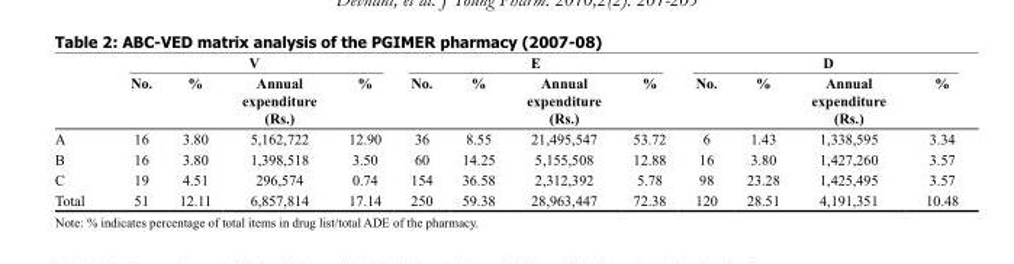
<table><thead><tr><td rowspan="2"></td><td colspan="4">V</td><td colspan="4">E</td><td colspan="4">D</td></tr><tr><td>No.</td><td>%</td><td>Annual expenditure (Rs.)</td><td>%</td><td>No.</td><td>%</td><td>Annual expenditure (Rs.)</td><td>%</td><td>No.</td><td>%</td><td>Annual expenditure (Rs.)</td><td>%</td></tr></thead><tbody><tr><td>A</td><td>16</td><td>3.80</td><td>5,162,722</td><td>12.90</td><td>36</td><td>8.55</td><td>21,495,547</td><td>53.72</td><td>6</td><td>1.43</td><td>1,338,595</td><td>3.34</td></tr><tr><td>B</td><td>16</td><td>3.80</td><td>1,398,518</td><td>3.50</td><td>60</td><td>14.25</td><td>5,155,508</td><td>12.88</td><td>16</td><td>3.80</td><td>1,427,260</td><td>3.57</td></tr><tr><td>C</td><td>19</td><td>4.51</td><td>296,574</td><td>0.74</td><td>154</td><td>36.58</td><td>2,312,392</td><td>5.78</td><td>98</td><td>23.28</td><td>1,425,495</td><td>3.57</td></tr><tr><td>Total</td><td>51</td><td>12.11</td><td>6,857,814</td><td>17.14</td><td>250</td><td>59.38</td><td>28,963,447</td><td>72.38</td><td>120</td><td>28.51</td><td>4,191,351</td><td>10.48</td></tr></tbody></table>